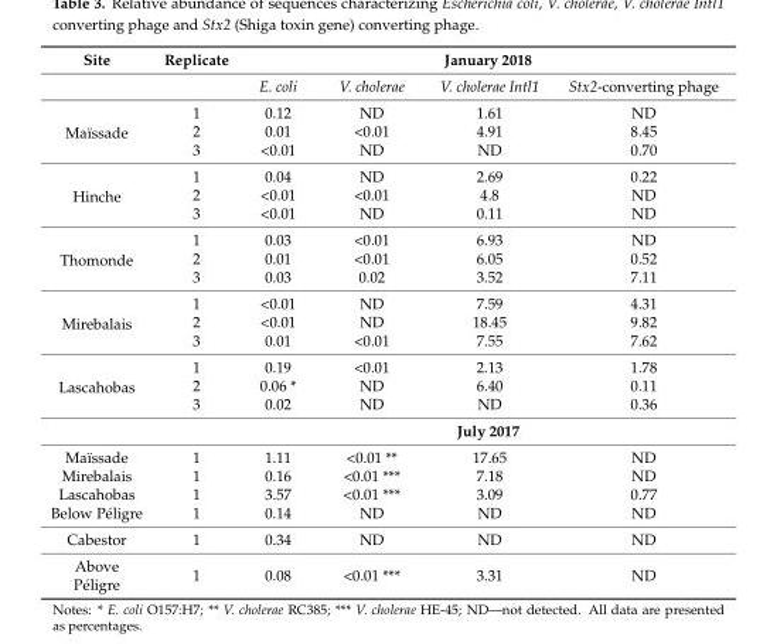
<table><thead><tr><td rowspan="2">Site</td><td rowspan="2">Replicate</td><td colspan="4">January 2018</td></tr><tr><td>E. coli</td><td>V. cholerae</td><td>V. cholerae Intl1</td><td>Stx2-converting phage</td></tr></thead><tbody><tr><td rowspan="3">Maïssade</td><td>1</td><td>0.12</td><td>ND</td><td>1.61</td><td>ND</td></tr><tr><td>2</td><td>0.01</td><td>&lt;0.01</td><td>4.91</td><td>8.45</td></tr><tr><td>3</td><td>&lt;0.01</td><td>ND</td><td>ND</td><td>0.70</td></tr><tr><td rowspan="3">Hinche</td><td>1</td><td>0.04</td><td>ND</td><td>2.69</td><td>0.22</td></tr><tr><td>2</td><td>&lt;0.01</td><td>&lt;0.01</td><td>4.8</td><td>ND</td></tr><tr><td>3</td><td>&lt;0.01</td><td>ND</td><td>0.11</td><td>ND</td></tr><tr><td rowspan="3">Thomonde</td><td>1</td><td>0.03</td><td>&lt;0.01</td><td>6.93</td><td>ND</td></tr><tr><td>2</td><td>0.01</td><td>&lt;0.01</td><td>6.05</td><td>0.52</td></tr><tr><td>3</td><td>0.03</td><td>0.02</td><td>3.52</td><td>7.11</td></tr><tr><td rowspan="3">Mirebalais</td><td>1</td><td>&lt;0.01</td><td>ND</td><td>7.59</td><td>4.31</td></tr><tr><td>2</td><td>&lt;0.01</td><td>ND</td><td>18.45</td><td>9.82</td></tr><tr><td>3</td><td>0.01</td><td>&lt;0.01</td><td>7.55</td><td>7.62</td></tr><tr><td rowspan="4">Lascahobas</td><td>1</td><td>0.19</td><td>&lt;0.01</td><td>2.13</td><td>1.78</td></tr><tr><td>2</td><td>0.06 *</td><td>ND</td><td>6.40</td><td>0.11</td></tr><tr><td>3</td><td>0.02</td><td>ND</td><td>ND</td><td>0.36</td></tr><tr><td></td><td colspan="4">July 2017</td></tr><tr><td>Maïssade</td><td>1</td><td>1.11</td><td>&lt;0.01 **</td><td>17.65</td><td>ND</td></tr><tr><td>Mirebalais</td><td>1</td><td>0.16</td><td>&lt;0.01 ***</td><td>7.18</td><td>ND</td></tr><tr><td>Lascahobas</td><td>1</td><td>3.57</td><td>&lt;0.01 ***</td><td>3.09</td><td>0.77</td></tr><tr><td>Below Péligre</td><td>1</td><td>0.14</td><td>ND</td><td>ND</td><td>ND</td></tr><tr><td>Cabestor</td><td>1</td><td>0.34</td><td>ND</td><td>ND</td><td>ND</td></tr><tr><td>Above Péligre</td><td>1</td><td>0.08</td><td>&lt;0.01 ***</td><td>3.31</td><td>ND</td></tr></tbody></table>